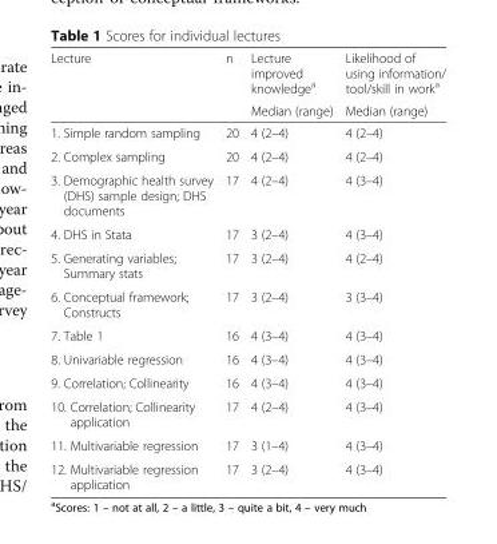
<table><thead><tr><td rowspan="2">Lecture</td><td rowspan="2">n</td><td rowspan="2">Lecture improved knowledge<sup>a</sup> Median (range)</td><td rowspan="2">Likelihood of using information/ tool/skill in work<sup>a</sup> Median (range)</td></tr><tr></tr></thead><tbody><tr><td>1. Simple random sampling</td><td>20</td><td>4 (2–4)</td><td>4 (2–4)</td></tr><tr><td>2. Complex sampling</td><td>20</td><td>4 (2–4)</td><td>4 (2–4)</td></tr><tr><td>3. Demographic health survey (DHS) sample design; DHS documents</td><td>17</td><td>4 (2–4)</td><td>4 (3–4)</td></tr><tr><td>4. DHS in Stata</td><td>17</td><td>3 (2–4)</td><td>4 (3–4)</td></tr><tr><td>5. Generating variables; Summary stats</td><td>17</td><td>3 (2–4)</td><td>4 (2–4)</td></tr><tr><td>6. Conceptual framework; Constructs</td><td>17</td><td>3 (2–4)</td><td>3 (3–4)</td></tr><tr><td>7. Table 1</td><td>16</td><td>4 (3–4)</td><td>4 (3–4)</td></tr><tr><td>8. Univariable regression</td><td>16</td><td>4 (3–4)</td><td>4 (3–4)</td></tr><tr><td>9. Correlation; Collinearity</td><td>16</td><td>4 (3–4)</td><td>4 (3–4)</td></tr><tr><td>10. Correlation; Collinearity application</td><td>17</td><td>4 (2–4)</td><td>4 (3–4)</td></tr><tr><td>11. Multivariable regression</td><td>17</td><td>3 (1–4)</td><td>4 (3–4)</td></tr><tr><td>12. Multivariable regression application</td><td>17</td><td>3 (2–4)</td><td>4 (3–4)</td></tr></tbody></table>